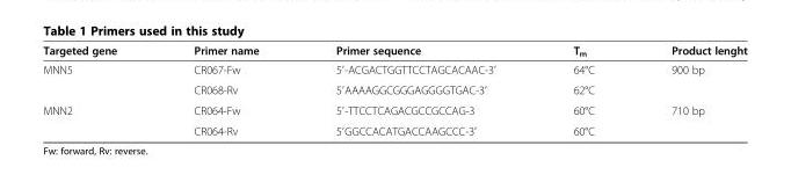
<table><thead><tr><td>Targeted gene</td><td>Primer name</td><td>Primer sequence</td><td>T<sub>m</sub></td><td>Product lenght</td></tr></thead><tbody><tr><td rowspan="2">MNN5</td><td>CR067-Fw</td><td>5′-ACGACTGGTTCCTAGCACAAC-3′</td><td>64°C</td><td rowspan="2">900 bp</td></tr><tr><td>CR068-Rv</td><td>5′AAAAGGCGGGAGGGGTGAC-3′</td><td>62°C</td></tr><tr><td rowspan="2">MNN2</td><td>CR064-Fw</td><td>5′-TTCCTCAGACGCCGCCAG-3</td><td>60°C</td><td>710 bp</td></tr><tr><td>CR064-Rv</td><td>5′GGCCACATGACCAAGCCC-3′</td><td>60°C</td><td></td></tr></tbody></table>